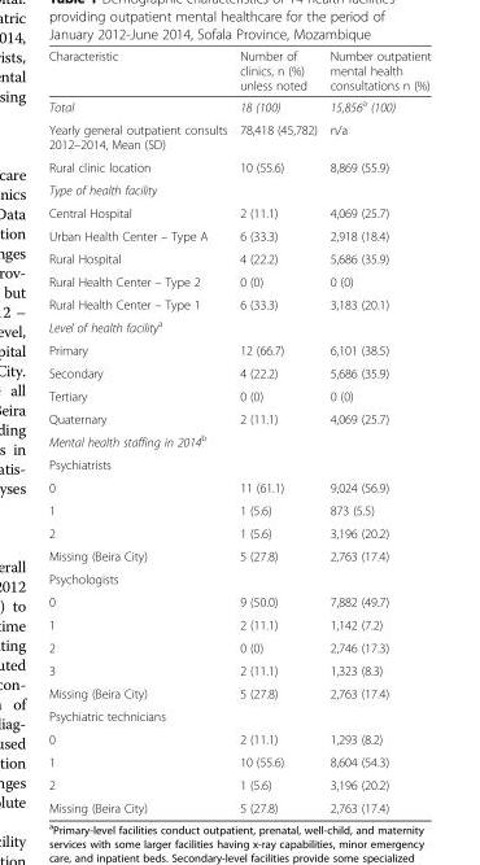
<table><thead><tr><td>Characteristic</td><td>Number of clinics, n (%) unless noted</td><td>Number outpatient mental health consultations n (%)</td></tr></thead><tbody><tr><td>Total</td><td>18 (100)</td><td>15,856<sup>a</sup> (100)</td></tr><tr><td>Yearly general outpatient consults 2012–2014, Mean (SD)</td><td>78,418 (45,782)</td><td>n/a</td></tr><tr><td>Rural clinic location</td><td>10 (55.6)</td><td>8,869 (55.9)</td></tr><tr><td colspan="3">Type of health facility</td></tr><tr><td>Central Hospital</td><td>2 (11.1)</td><td>4,069 (25.7)</td></tr><tr><td>Urban Health Center – Type A</td><td>6 (33.3)</td><td>2,918 (18.4)</td></tr><tr><td>Rural Hospital</td><td>4 (22.2)</td><td>5,686 (35.9)</td></tr><tr><td>Rural Health Center – Type 2</td><td>0 (0)</td><td>0 (0)</td></tr><tr><td>Rural Health Center – Type 1</td><td>6 (33.3)</td><td>3,183 (20.1)</td></tr><tr><td colspan="3">Level of health facility<sup>a</sup></td></tr><tr><td>Primary</td><td>12 (66.7)</td><td>6,101 (38.5)</td></tr><tr><td>Secondary</td><td>4 (22.2)</td><td>5,686 (35.9)</td></tr><tr><td>Tertiary</td><td>0 (0)</td><td>0 (0)</td></tr><tr><td>Quaternary</td><td>2 (11.1)</td><td>4,069 (25.7)</td></tr><tr><td colspan="3">Mental health staffing in 2014<sup>b</sup></td></tr><tr><td colspan="3">Psychiatrists</td></tr><tr><td>0</td><td>11 (61.1)</td><td>9,024 (56.9)</td></tr><tr><td>1</td><td>1 (5.6)</td><td>873 (5.5)</td></tr><tr><td>2</td><td>1 (5.6)</td><td>3,196 (20.2)</td></tr><tr><td>Missing (Beira City)</td><td>5 (27.8)</td><td>2,763 (17.4)</td></tr><tr><td colspan="3">Psychologists</td></tr><tr><td>0</td><td>9 (50.0)</td><td>7,882 (49.7)</td></tr><tr><td>1</td><td>2 (11.1)</td><td>1,142 (7.2)</td></tr><tr><td>2</td><td>0 (0)</td><td>2,746 (17.3)</td></tr><tr><td>3</td><td>2 (11.1)</td><td>1,323 (8.3)</td></tr><tr><td>Missing (Beira City)</td><td>5 (27.8)</td><td>2,763 (17.4)</td></tr><tr><td colspan="3">Psychiatric technicians</td></tr><tr><td>0</td><td>2 (11.1)</td><td>1,293 (8.2)</td></tr><tr><td>1</td><td>10 (55.6)</td><td>8,604 (54.3)</td></tr><tr><td>2</td><td>1 (5.6)</td><td>3,196 (20.2)</td></tr><tr><td>Missing (Beira City)</td><td>5 (27.8)</td><td>2,763 (17.4)</td></tr></tbody></table>